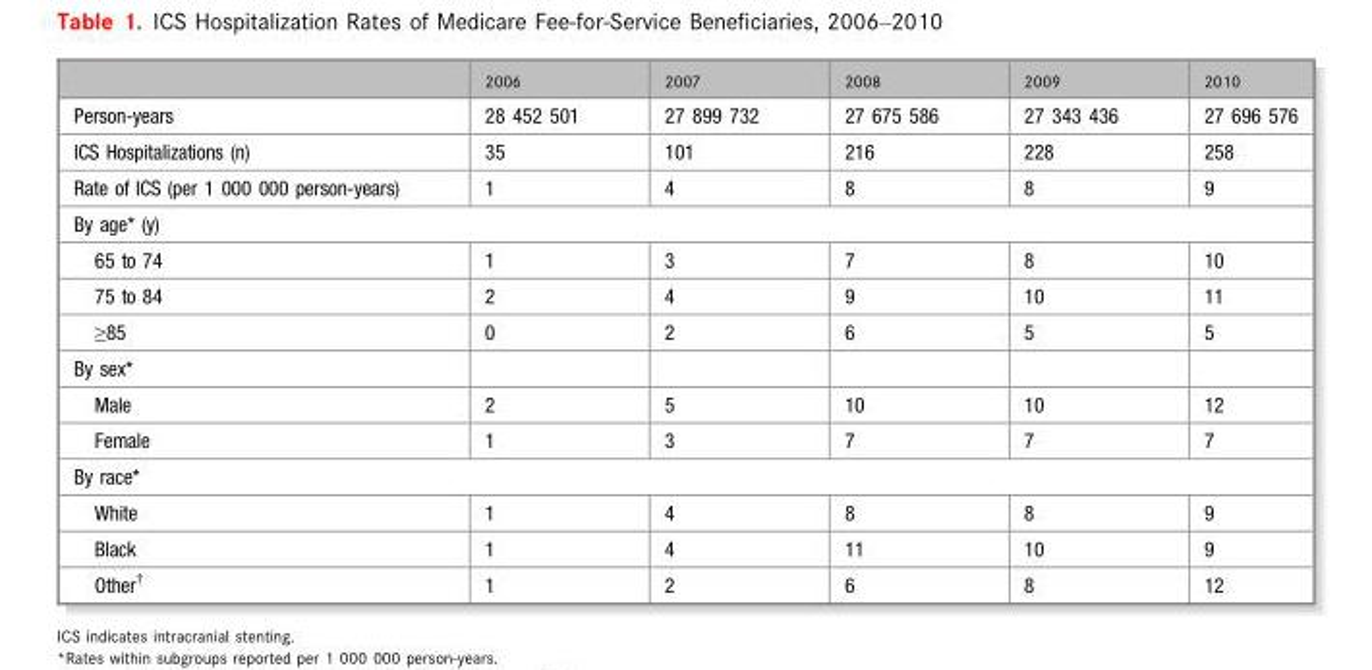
<table><thead><tr><td></td><td>2006</td><td>2007</td><td>2008</td><td>2009</td><td>2010</td></tr></thead><tbody><tr><td>Person-years</td><td>28 452 501</td><td>27 899 732</td><td>27 675 586</td><td>27 343 436</td><td>27 696 576</td></tr><tr><td>ICS Hospitalizations (n)</td><td>35</td><td>101</td><td>216</td><td>228</td><td>258</td></tr><tr><td>Rate of ICS (per 1 000 000 person-years)</td><td>1</td><td>4</td><td>8</td><td>8</td><td>9</td></tr><tr><td colspan="6">By age* (y)</td></tr><tr><td>65 to 74</td><td>1</td><td>3</td><td>7</td><td>8</td><td>10</td></tr><tr><td>75 to 84</td><td>2</td><td>4</td><td>9</td><td>10</td><td>11</td></tr><tr><td>≥85</td><td>0</td><td>2</td><td>6</td><td>5</td><td>5</td></tr><tr><td colspan="6">By sex*</td></tr><tr><td>Male</td><td>2</td><td>5</td><td>10</td><td>10</td><td>12</td></tr><tr><td>Female</td><td>1</td><td>3</td><td>7</td><td>7</td><td>7</td></tr><tr><td colspan="6">By race*</td></tr><tr><td>White</td><td>1</td><td>4</td><td>8</td><td>8</td><td>9</td></tr><tr><td>Black</td><td>1</td><td>4</td><td>11</td><td>10</td><td>9</td></tr><tr><td>Other†</td><td>1</td><td>2</td><td>6</td><td>8</td><td>12</td></tr></tbody></table>